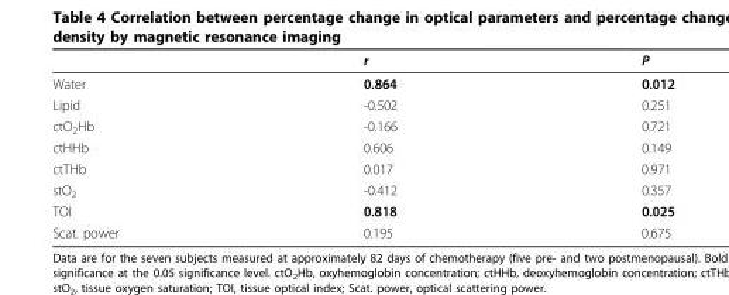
<table><thead><tr><td></td><td>r</td><td>P</td></tr></thead><tbody><tr><td>Water</td><td>0.864</td><td>0.012</td></tr><tr><td>Lipid</td><td>-0.502</td><td>0.251</td></tr><tr><td>ctO<sub>2</sub>Hb</td><td>-0.166</td><td>0.721</td></tr><tr><td>ctHHb</td><td>0.606</td><td>0.149</td></tr><tr><td>ctTHb</td><td>0.017</td><td>0.971</td></tr><tr><td>stO<sub>2</sub></td><td>-0.412</td><td>0.357</td></tr><tr><td>TOI</td><td>0.818</td><td>0.025</td></tr><tr><td>Scat. power</td><td>0.195</td><td>0.675</td></tr></tbody></table>